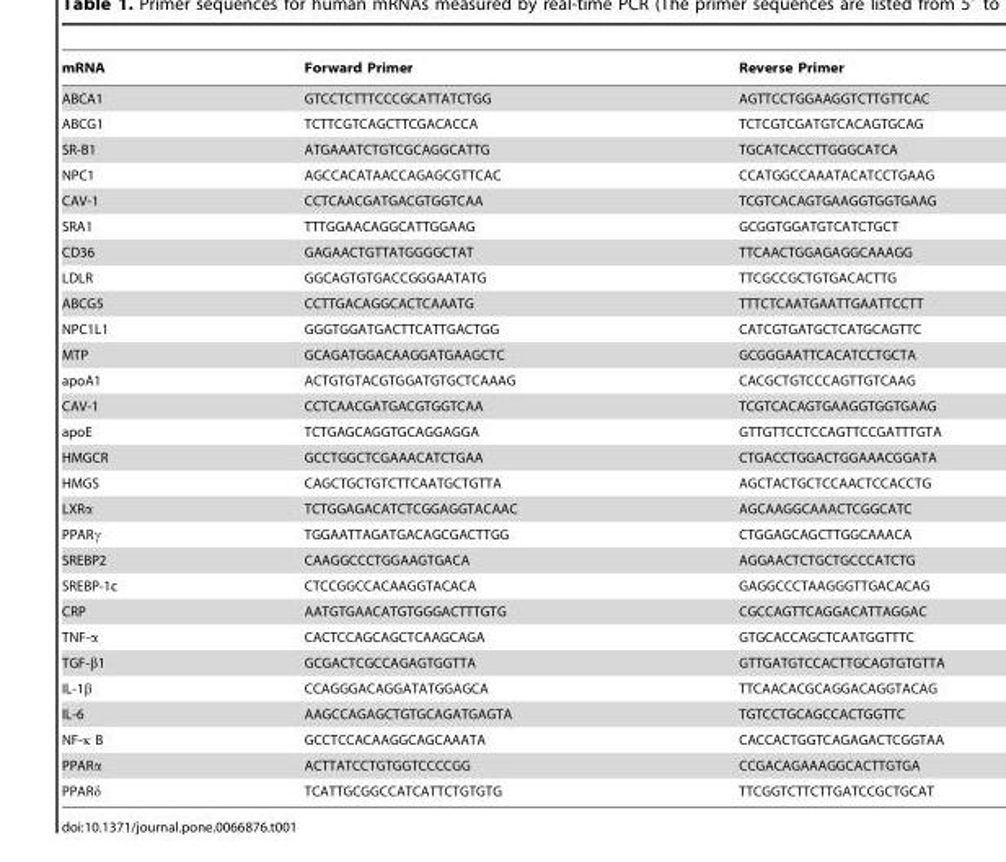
<table><thead><tr><td>mRNA</td><td>Forward Primer</td><td>Reverse Primer</td></tr></thead><tbody><tr><td>ABCA1</td><td>GTCCTCTTTCCCGCATTATCTGG</td><td>AGTTCCTGGAAGGTCTTGTTCAC</td></tr><tr><td>ABCG1</td><td>TCTTCGTCAGCTTCGACACCA</td><td>TCTCGTCGATGTCACAGTGCAG</td></tr><tr><td>SR-B1</td><td>ATGAAATCTGTCGCAGGCATTG</td><td>TGCATCACCTTGGGCATCA</td></tr><tr><td>NPC1</td><td>AGCCACATAACCAGAGCGTTCAC</td><td>CCATGGCCAAATACATCCTGAAG</td></tr><tr><td>CAV-1</td><td>CCTCAACGATGACGTGGTCAA</td><td>TCGTCACAGTGAAGGTGGTGAAG</td></tr><tr><td>SRA1</td><td>TTTGGAACAGGCATTGGAAG</td><td>GCGGTGGATGTCATCTGCT</td></tr><tr><td>CD36</td><td>GAGAACTGTTATGGGGCTAT</td><td>TTCAACTGGAGAGGCAAAGG</td></tr><tr><td>LDLR</td><td>GGCAGTGTGACCGGGAATATG</td><td>TTCGCCGCTGTGACACTTG</td></tr><tr><td>ABCG5</td><td>CCTTGACAGGCACTCAAATG</td><td>TTTCTCAATGAATTGAATTCCTT</td></tr><tr><td>NPC1L1</td><td>GGGTGGATGACTTCATTGACTGG</td><td>CATCGTGATGCTCATGCAGTTC</td></tr><tr><td>MTP</td><td>GCAGATGGACAAGGATGAAGCTC</td><td>GCGGGAATTCACATCCTGCTA</td></tr><tr><td>apoA1</td><td>ACTGTGTACGTGGATGTGCTCAAAG</td><td>CACGCTGTCCCAGTTGTCAAG</td></tr><tr><td>CAV-1</td><td>CCTCAACGATGACGTGGTCAA</td><td>TCGTCACAGTGAAGGTGGTGAAG</td></tr><tr><td>apoE</td><td>TCTGAGCAGGTGCAGGAGGA</td><td>GTTGTTCCTCCAGTTCCGATTTGTA</td></tr><tr><td>HMGCR</td><td>GCCTGGCTCGAAACATCTGAA</td><td>CTGACCTGGACTGGAAACGGATA</td></tr><tr><td>HMGS</td><td>CAGCTGCTGTCTTCAATGCTGTTA</td><td>AGCTACTGCTCCAACTCCACCTG</td></tr><tr><td>LXRα</td><td>TCTGGAGACATCTCGGAGGTACAAC</td><td>AGCAAGGCAAACTCGGCATC</td></tr><tr><td>PPARγ</td><td>TGGAATTAGATGACAGCGACTTGG</td><td>CTGGAGCAGCTTGGCAAACA</td></tr><tr><td>SREBP2</td><td>CAAGGCCCTGGAAGTGACA</td><td>AGGAACTCTGCTGCCCATCTG</td></tr><tr><td>SREBP-1c</td><td>CTCCGGCCACAAGGTACACA</td><td>GAGGCCCTAAGGGTTGACACAG</td></tr><tr><td>CRP</td><td>AATGTGAACATGTGGGACTTTGTG</td><td>CGCCAGTTCAGGACATTAGGAC</td></tr><tr><td>TNF-α</td><td>CACTCCAGCAGCTCAAGCAGA</td><td>GTGCACCAGCTCAATGGTTTC</td></tr><tr><td>TGF-β1</td><td>GCGACTCGCCAGAGTGGTTA</td><td>GTTGATGTCCACTTGCAGTGTGTTA</td></tr><tr><td>IL-1β</td><td>CCAGGGACAGGATATGGAGCA</td><td>TTCAACACGCAGGACAGGTACAG</td></tr><tr><td>IL-6</td><td>AAGCCAGAGCTGTGCAGATGAGTA</td><td>TGTCCTGCAGCCACTGGTTC</td></tr><tr><td>NF-κ B</td><td>GCCTCCACAAGGCAGCAAATA</td><td>CACCACTGGTCAGAGACTCGGTAA</td></tr><tr><td>PPARα</td><td>ACTTATCCTGTGGTCCCCGG</td><td>CCGACAGAAAGGCACTTGTGA</td></tr><tr><td>PPARδ</td><td>TCATTGCGGCCATCATTCTGTGTG</td><td>TTCGGTCTTCTTGATCCGCTGCAT</td></tr></tbody></table>